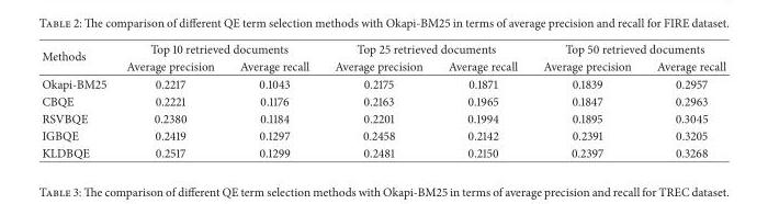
<table><thead><tr><td rowspan="2">Methods</td><td colspan="2">Top 10 retrieved documents</td><td colspan="2">Top 25 retrieved documents</td><td colspan="2">Top 50 retrieved documents</td></tr><tr><td>Average precision</td><td>Average recall</td><td>Average precision</td><td>Average recall</td><td>Average precision</td><td>Average recall</td></tr></thead><tbody><tr><td>Okapi-BM25</td><td>0.2217</td><td>0.1043</td><td>0.2175</td><td>0.1871</td><td>0.1839</td><td>0.2957</td></tr><tr><td>CBQE</td><td>0.2221</td><td>0.1176</td><td>0.2163</td><td>0.1965</td><td>0.1847</td><td>0.2963</td></tr><tr><td>RSVBQE</td><td>0.2380</td><td>0.1184</td><td>0.2201</td><td>0.1994</td><td>0.1895</td><td>0.3045</td></tr><tr><td>IGBQE</td><td>0.2419</td><td>0.1297</td><td>0.2458</td><td>0.2142</td><td>0.2391</td><td>0.3205</td></tr><tr><td>KLDBQE</td><td>0.2517</td><td>0.1299</td><td>0.2481</td><td>0.2150</td><td>0.2397</td><td>0.3268</td></tr></tbody></table>